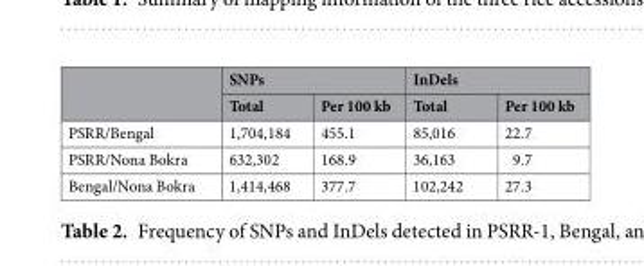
<table><thead><tr><td rowspan="2"></td><td colspan="2">SNPs</td><td colspan="2">InDels</td></tr><tr><td>Total</td><td>Per 100 kb</td><td>Total</td><td>Per 100 kb</td></tr></thead><tbody><tr><td>PSRR/Bengal</td><td>1,704,184</td><td>455.1</td><td>85,016</td><td>22.7</td></tr><tr><td>PSRR/Nona Bokra</td><td>632,302</td><td>168.9</td><td>36,163</td><td>9.7</td></tr><tr><td>Bengal/Nona Bokra</td><td>1,414,468</td><td>377.7</td><td>102,242</td><td>27.3</td></tr></tbody></table>